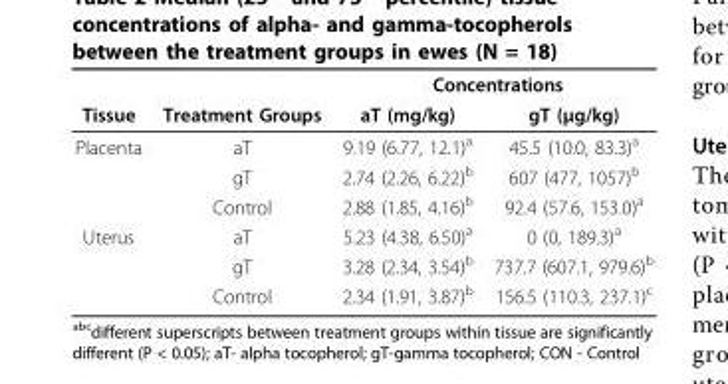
<table><thead><tr><td rowspan="2">Tissue</td><td rowspan="2">Treatment Groups</td><td colspan="2">Concentrations</td></tr><tr><td>aT (mg/kg)</td><td>gT (μg/kg)</td></tr></thead><tbody><tr><td rowspan="3">Placenta</td><td>aT</td><td>9.19 (6.77, 12.1)<sup>a</sup></td><td>45.5 (10.0, 83.3)<sup>a</sup></td></tr><tr><td>gT</td><td>2.74 (2.26, 6.22)<sup>b</sup></td><td>607 (477, 1057)<sup>b</sup></td></tr><tr><td>Control</td><td>2.88 (1.85, 4.16)<sup>b</sup></td><td>92.4 (57.6, 153.0)<sup>a</sup></td></tr><tr><td rowspan="3">Uterus</td><td>aT</td><td>5.23 (4.38, 6.50)<sup>a</sup></td><td>0 (0, 189.3)<sup>a</sup></td></tr><tr><td>gT</td><td>3.28 (2.34, 3.54)<sup>b</sup></td><td>737.7 (607.1, 979.6)<sup>b</sup></td></tr><tr><td>Control</td><td>2.34 (1.91, 3.87)<sup>b</sup></td><td>156.5 (110.3, 237.1)<sup>c</sup></td></tr></tbody></table>